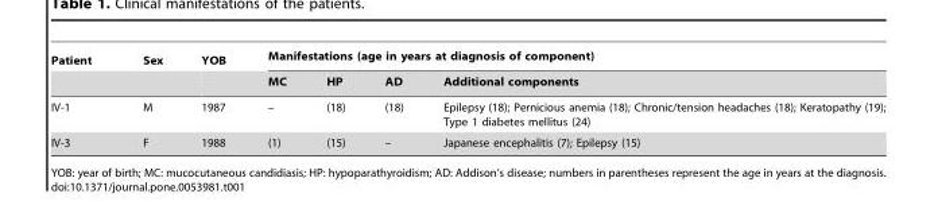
<table><thead><tr><td rowspan="2">Patient</td><td rowspan="2">Sex</td><td rowspan="2">YOB</td><td colspan="4">Manifestations (age in years at diagnosis of component)</td></tr><tr><td>MC</td><td>HP</td><td>AD</td><td>Additional components</td></tr></thead><tbody><tr><td>IV-1</td><td>M</td><td>1987</td><td>–</td><td>(18)</td><td>(18)</td><td>Epilepsy (18); Pernicious anemia (18); Chronic/tension headaches (18); Keratopathy (19); Type 1 diabetes mellitus (24)</td></tr><tr><td>IV-3</td><td>F</td><td>1988</td><td>(1)</td><td>(15)</td><td>–</td><td>Japanese encephalitis (7); Epilepsy (15)</td></tr></tbody></table>